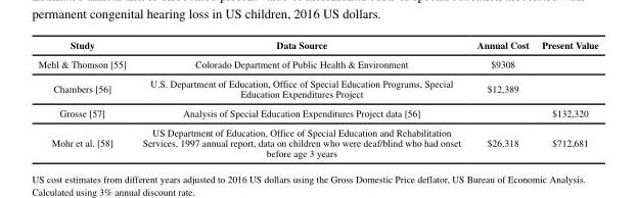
<table><thead><tr><td>Study</td><td>Data Source</td><td>Annual Cost</td><td>Present Value</td></tr></thead><tbody><tr><td>Mehl &amp; Thomson [55]</td><td>Colorado Department of Public Health &amp; Environment</td><td>$9308</td><td></td></tr><tr><td>Chambers [56]</td><td>U.S. Department of Education, Office of Special Education Programs, Special Education Expenditures Project</td><td>$12,389</td><td></td></tr><tr><td>Grosse [57]</td><td>Analysis of Special Education Expenditures Project data [56]</td><td></td><td>$132,320</td></tr><tr><td>Mohr et al. [58]</td><td>US Department of Education, Office of Special Education and Rehabilitation Services, 1997 annual report, data on children who were deaf/blind who had onset before age 3 years</td><td>$26,318</td><td>$712,681</td></tr></tbody></table>